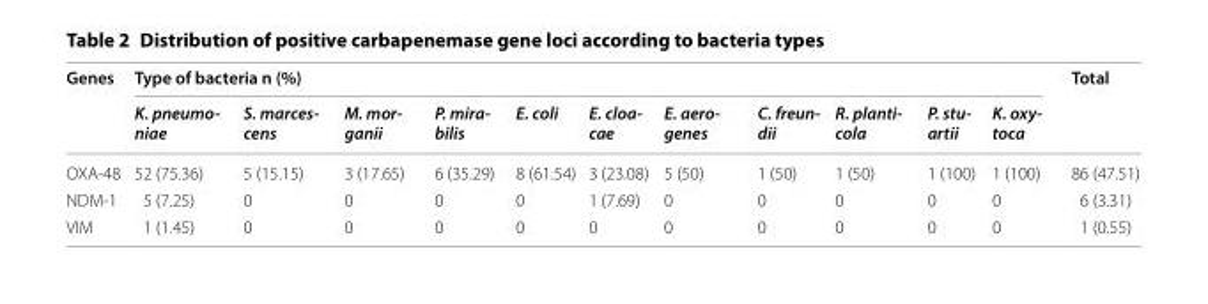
<table><thead><tr><td rowspan="2">Genes</td><td colspan="11">Type of bacteria n (%)</td><td rowspan="2">Total</td></tr><tr><td>K. pneumo- niae</td><td>S. marces- cens</td><td>M. mor- ganii</td><td>P. mira- bilis</td><td>E. coli</td><td>E. cloa- cae</td><td>E. aero- genes</td><td>C. freun- dii</td><td>R. planti- cola</td><td>P. stu- artii</td><td>K. oxy- toca</td></tr></thead><tbody><tr><td>OXA-48</td><td>52 (75.36)</td><td>5 (15.15)</td><td>3 (17.65)</td><td>6 (35.29)</td><td>8 (61.54)</td><td>3 (23.08)</td><td>5 (50)</td><td>1 (50)</td><td>1 (50)</td><td>1 (100)</td><td>1 (100)</td><td>86 (47.51)</td></tr><tr><td>NDM-1</td><td>5 (7.25)</td><td>0</td><td>0</td><td>0</td><td>0</td><td>1 (7.69)</td><td>0</td><td>0</td><td>0</td><td>0</td><td>0</td><td>6 (3.31)</td></tr><tr><td>VIM</td><td>1 (1.45)</td><td>0</td><td>0</td><td>0</td><td>0</td><td>0</td><td>0</td><td>0</td><td>0</td><td>0</td><td>0</td><td>1 (0.55)</td></tr></tbody></table>